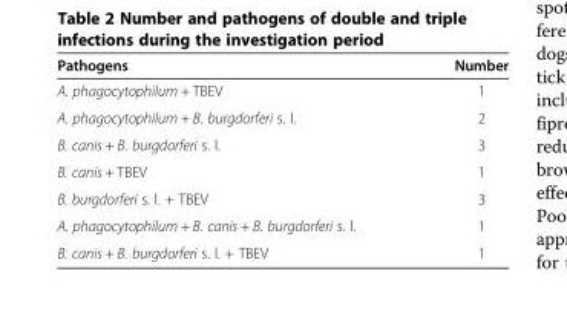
<table><thead><tr><td>Pathogens</td><td>Number</td></tr></thead><tbody><tr><td>A. phagocytophilum + TBEV</td><td>1</td></tr><tr><td>A. phagocytophilum + B. burgdorferi s. l.</td><td>2</td></tr><tr><td>B. canis + B. burgdorferi s. l.</td><td>3</td></tr><tr><td>B. canis + TBEV</td><td>1</td></tr><tr><td>B. burgdorferi s. l. + TBEV</td><td>3</td></tr><tr><td>A. phagocytophilum + B. canis + B. burgdorferi s. l.</td><td>1</td></tr><tr><td>B. canis + B. burgdorferi s. l. + TBEV</td><td>1</td></tr></tbody></table>